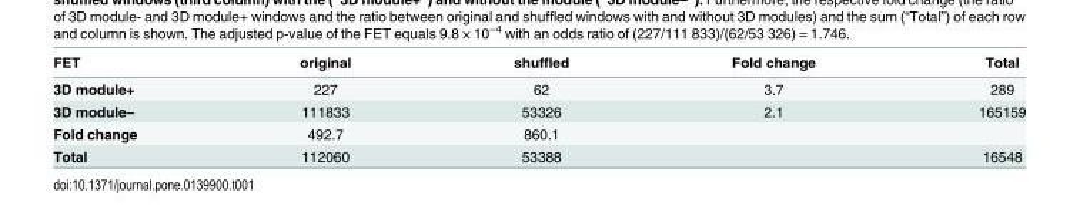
<table><thead><tr><td>FET</td><td>original</td><td>shuffled</td><td>Fold change</td><td>Total</td></tr></thead><tbody><tr><td>3D module+</td><td>227</td><td>62</td><td>3.7</td><td>289</td></tr><tr><td>3D module–</td><td>111833</td><td>53326</td><td>2.1</td><td>165159</td></tr><tr><td>Fold change</td><td>492.7</td><td>860.1</td><td></td><td></td></tr><tr><td>Total</td><td>112060</td><td>53388</td><td></td><td>16548</td></tr></tbody></table>